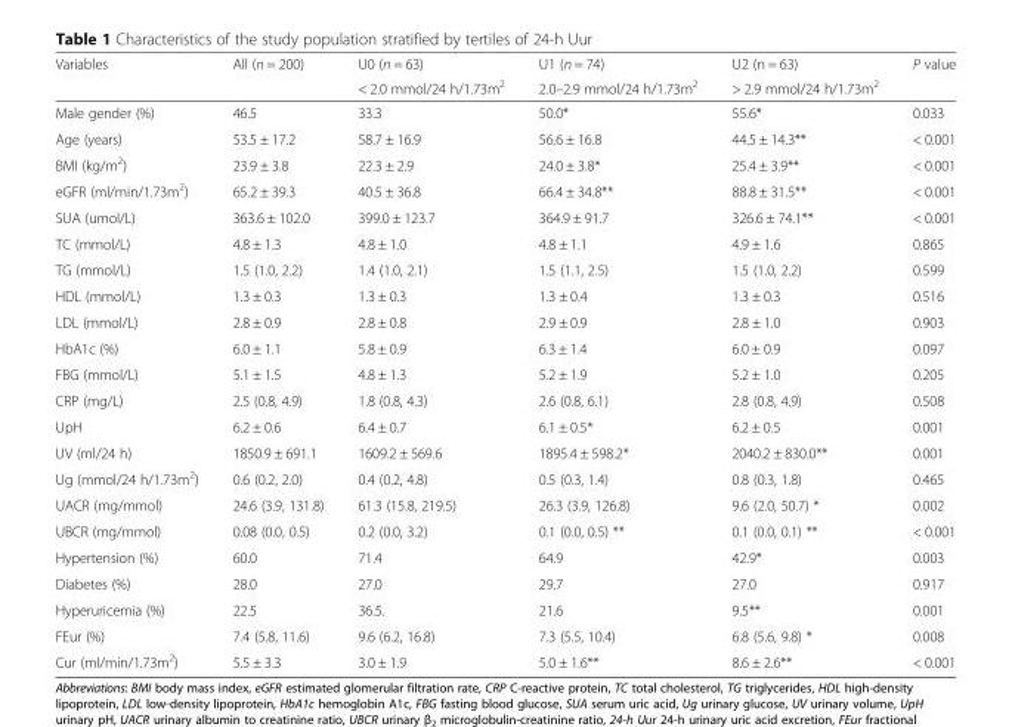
<table><thead><tr><td rowspan="2">Variables</td><td rowspan="2">All (n = 200)</td><td rowspan="2">U0 (n = 63) &lt; 2.0 mmol/24 h/1.73m<sup>2</sup></td><td rowspan="2">U1 (n = 74) 2.0–2.9 mmol/24 h/1.73m<sup>2</sup></td><td rowspan="2">U2 (n = 63) &gt; 2.9 mmol/24 h/1.73m<sup>2</sup></td><td rowspan="2">P value</td></tr><tr></tr></thead><tbody><tr><td>Male gender (%)</td><td>46.5</td><td>33.3</td><td>50.0*</td><td>55.6*</td><td>0.033</td></tr><tr><td>Age (years)</td><td>53.5 ± 17.2</td><td>58.7 ± 16.9</td><td>56.6 ± 16.8</td><td>44.5 ± 14.3**</td><td>&lt; 0.001</td></tr><tr><td>BMI (kg/m<sup>2</sup>)</td><td>23.9 ± 3.8</td><td>22.3 ± 2.9</td><td>24.0 ± 3.8*</td><td>25.4 ± 3.9**</td><td>&lt; 0.001</td></tr><tr><td>eGFR (ml/min/1.73m<sup>2</sup>)</td><td>65.2 ± 39.3</td><td>40.5 ± 36.8</td><td>66.4 ± 34.8**</td><td>88.8 ± 31.5**</td><td>&lt; 0.001</td></tr><tr><td>SUA (umol/L)</td><td>363.6 ± 102.0</td><td>399.0 ± 123.7</td><td>364.9 ± 91.7</td><td>326.6 ± 74.1**</td><td>&lt; 0.001</td></tr><tr><td>TC (mmol/L)</td><td>4.8 ± 1.3</td><td>4.8 ± 1.0</td><td>4.8 ± 1.1</td><td>4.9 ± 1.6</td><td>0.865</td></tr><tr><td>TG (mmol/L)</td><td>1.5 (1.0, 2.2)</td><td>1.4 (1.0, 2.1)</td><td>1.5 (1.1, 2.5)</td><td>1.5 (1.0, 2.2)</td><td>0.599</td></tr><tr><td>HDL (mmol/L)</td><td>1.3 ± 0.3</td><td>1.3 ± 0.3</td><td>1.3 ± 0.4</td><td>1.3 ± 0.3</td><td>0.516</td></tr><tr><td>LDL (mmol/L)</td><td>2.8 ± 0.9</td><td>2.8 ± 0.8</td><td>2.9 ± 0.9</td><td>2.8 ± 1.0</td><td>0.903</td></tr><tr><td>HbA1c (%)</td><td>6.0 ± 1.1</td><td>5.8 ± 0.9</td><td>6.3 ± 1.4</td><td>6.0 ± 0.9</td><td>0.097</td></tr><tr><td>FBG (mmol/L)</td><td>5.1 ± 1.5</td><td>4.8 ± 1.3</td><td>5.2 ± 1.9</td><td>5.2 ± 1.0</td><td>0.205</td></tr><tr><td>CRP (mg/L)</td><td>2.5 (0.8, 4.9)</td><td>1.8 (0.8, 4.3)</td><td>2.6 (0.8, 6.1)</td><td>2.8 (0.8, 4.9)</td><td>0.508</td></tr><tr><td>UpH</td><td>6.2 ± 0.6</td><td>6.4 ± 0.7</td><td>6.1 ± 0.5*</td><td>6.2 ± 0.5</td><td>0.001</td></tr><tr><td>UV (ml/24 h)</td><td>1850.9 ± 691.1</td><td>1609.2 ± 569.6</td><td>1895.4 ± 598.2*</td><td>2040.2 ± 830.0**</td><td>0.001</td></tr><tr><td>Ug (mmol/24 h/1.73m<sup>2</sup>)</td><td>0.6 (0.2, 2.0)</td><td>0.4 (0.2, 4.8)</td><td>0.5 (0.3, 1.4)</td><td>0.8 (0.3, 1.8)</td><td>0.465</td></tr><tr><td>UACR (mg/mmol)</td><td>24.6 (3.9, 131.8)</td><td>61.3 (15.8, 219.5)</td><td>26.3 (3.9, 126.8)</td><td>9.6 (2.0, 50.7) *</td><td>0.002</td></tr><tr><td>UBCR (mg/mmol)</td><td>0.08 (0.0, 0.5)</td><td>0.2 (0.0, 3.2)</td><td>0.1 (0.0, 0.5) **</td><td>0.1 (0.0, 0.1) **</td><td>&lt; 0.001</td></tr><tr><td>Hypertension (%)</td><td>60.0</td><td>71.4</td><td>64.9</td><td>42.9*</td><td>0.003</td></tr><tr><td>Diabetes (%)</td><td>28.0</td><td>27.0</td><td>29.7</td><td>27.0</td><td>0.917</td></tr><tr><td>Hyperuricemia (%)</td><td>22.5</td><td>36.5.</td><td>21.6</td><td>9.5**</td><td>0.001</td></tr><tr><td>FEur (%)</td><td>7.4 (5.8, 11.6)</td><td>9.6 (6.2, 16.8)</td><td>7.3 (5.5, 10.4)</td><td>6.8 (5.6, 9.8) *</td><td>0.008</td></tr><tr><td>Cur (ml/min/1.73m<sup>2</sup>)</td><td>5.5 ± 3.3</td><td>3.0 ± 1.9</td><td>5.0 ± 1.6**</td><td>8.6 ± 2.6**</td><td>&lt; 0.001</td></tr></tbody></table>